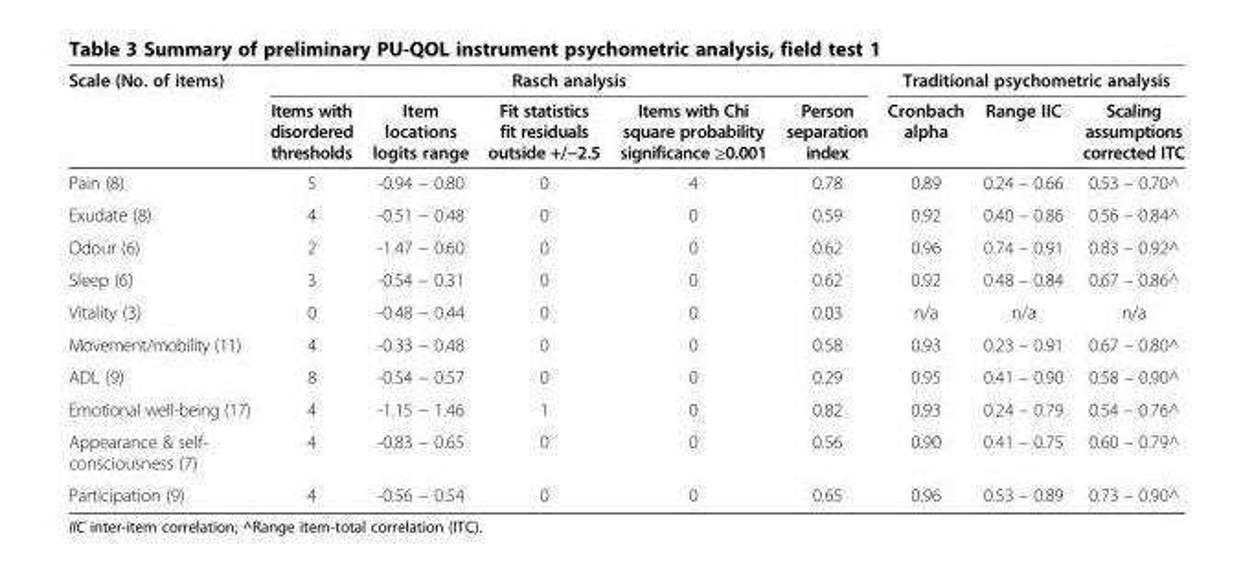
<table><thead><tr><td rowspan="2">Scale (No. of items)</td><td colspan="5">Rasch analysis</td><td colspan="3">Traditional psychometric analysis</td></tr><tr><td>Items with disordered thresholds</td><td>Item locations logits range</td><td>Fit statistics fit residuals outside +/−2.5</td><td>Items with Chi square probability significance ≥0.001</td><td>Person separation index</td><td>Cronbach alpha</td><td>Range IIC</td><td>Scaling assumptions corrected ITC</td></tr></thead><tbody><tr><td>Pain (8)</td><td>5</td><td>-0.94 − 0.80</td><td>0</td><td>4</td><td>0.78</td><td>0.89</td><td>0.24 – 0.66</td><td>0.53 – 0.70^</td></tr><tr><td>Exudate (8)</td><td>4</td><td>-0.51 − 0.48</td><td>0</td><td>0</td><td>0.59</td><td>0.92</td><td>0.40 – 0.86</td><td>0.56 – 0.84^</td></tr><tr><td>Odour (6)</td><td>2</td><td>-1.47 − 0.60</td><td>0</td><td>0</td><td>0.62</td><td>0.96</td><td>0.74 – 0.91</td><td>0.83 – 0.92^</td></tr><tr><td>Sleep (6)</td><td>3</td><td>-0.54 − 0.31</td><td>0</td><td>0</td><td>0.62</td><td>0.92</td><td>0.48 – 0.84</td><td>0.67 – 0.86^</td></tr><tr><td>Vitality (3)</td><td>0</td><td>-0.48 − 0.44</td><td>0</td><td>0</td><td>0.03</td><td>n/a</td><td>n/a</td><td>n/a</td></tr><tr><td>Movement/mobility (11)</td><td>4</td><td>-0.33 − 0.48</td><td>0</td><td>0</td><td>0.58</td><td>0.93</td><td>0.23 – 0.91</td><td>0.67 – 0.80^</td></tr><tr><td>ADL (9)</td><td>8</td><td>-0.54 − 0.57</td><td>0</td><td>0</td><td>0.29</td><td>0.95</td><td>0.41 – 0.90</td><td>0.58 – 0.90^</td></tr><tr><td>Emotional well-being (17)</td><td>4</td><td>-1.15 − 1.46</td><td>1</td><td>0</td><td>0.82</td><td>0.93</td><td>0.24 – 0.79</td><td>0.54 – 0.76^</td></tr><tr><td>Appearance &amp; self- consciousness (7)</td><td>4</td><td>-0.83 − 0.65</td><td>0</td><td>0</td><td>0.56</td><td>0.90</td><td>0.41 – 0.75</td><td>0.60 – 0.79^</td></tr><tr><td>Participation (9)</td><td>4</td><td>-0.56 − 0.54</td><td>0</td><td>0</td><td>0.65</td><td>0.96</td><td>0.53 – 0.89</td><td>0.73 – 0.90^</td></tr></tbody></table>